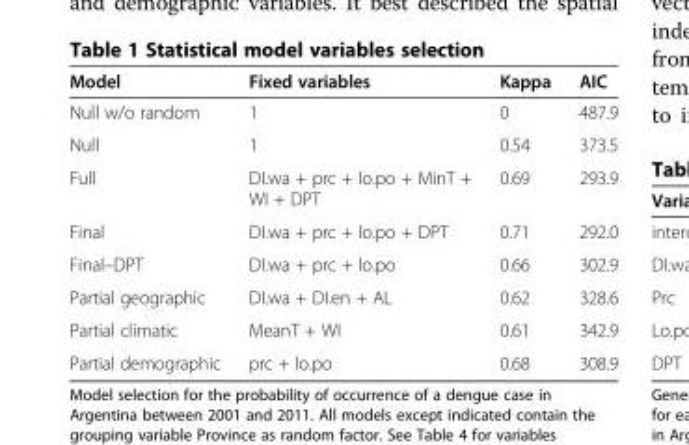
<table><thead><tr><td>Model</td><td>Fixed variables</td><td>Kappa</td><td>AIC</td></tr></thead><tbody><tr><td>Null w/o random</td><td>1</td><td>0</td><td>487.9</td></tr><tr><td>Null</td><td>1</td><td>0.54</td><td>373.5</td></tr><tr><td>Full</td><td>DI.wa + prc + lo.po + MinT + WI + DPT</td><td>0.69</td><td>293.9</td></tr><tr><td>Final</td><td>DI.wa + prc + lo.po + DPT</td><td>0.71</td><td>292.0</td></tr><tr><td>Final–DPT</td><td>DI.wa + prc + lo.po</td><td>0.66</td><td>302.9</td></tr><tr><td>Partial geographic</td><td>DI.wa + DI.en + AL</td><td>0.62</td><td>328.6</td></tr><tr><td>Partial climatic</td><td>MeanT + WI</td><td>0.61</td><td>342.9</td></tr><tr><td>Partial demographic</td><td>prc + lo.po</td><td>0.68</td><td>308.9</td></tr></tbody></table>